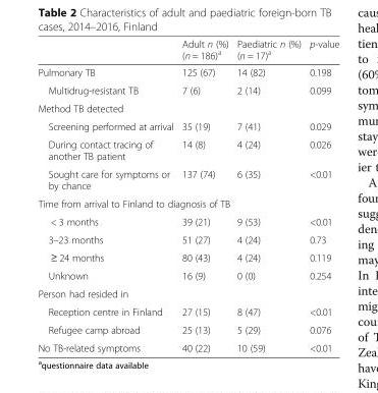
<table><thead><tr><td></td><td>Adult n (%) (n = 186)<sup>a</sup></td><td>Paediatric n (%) (n = 17)<sup>a</sup></td><td>p-value</td></tr></thead><tbody><tr><td>Pulmonary TB</td><td>125 (67)</td><td>14 (82)</td><td>0.198</td></tr><tr><td>Multidrug-resistant TB</td><td>7 (6)</td><td>2 (14)</td><td>0.099</td></tr><tr><td colspan="4">Method TB detected</td></tr><tr><td>Screening performed at arrival</td><td>35 (19)</td><td>7 (41)</td><td>0.029</td></tr><tr><td>During contact tracing of another TB patient</td><td>14 (8)</td><td>4 (24)</td><td>0.026</td></tr><tr><td>Sought care for symptoms or by chance</td><td>137 (74)</td><td>6 (35)</td><td>&lt;0.01</td></tr><tr><td colspan="4">Time from arrival to Finland to diagnosis of TB</td></tr><tr><td>&lt; 3 months</td><td>39 (21)</td><td>9 (53)</td><td>&lt;0.01</td></tr><tr><td>3–23 months</td><td>51 (27)</td><td>4 (24)</td><td>0.73</td></tr><tr><td>≥ 24 months</td><td>80 (43)</td><td>4 (24)</td><td>0.119</td></tr><tr><td>Unknown</td><td>16 (9)</td><td>0 (0)</td><td>0.254</td></tr><tr><td colspan="4">Person had resided in</td></tr><tr><td>Reception centre in Finland</td><td>27 (15)</td><td>8 (47)</td><td>&lt;0.01</td></tr><tr><td>Refugee camp abroad</td><td>25 (13)</td><td>5 (29)</td><td>0.076</td></tr><tr><td>No TB-related symptoms</td><td>40 (22)</td><td>10 (59)</td><td>&lt;0.01</td></tr></tbody></table>